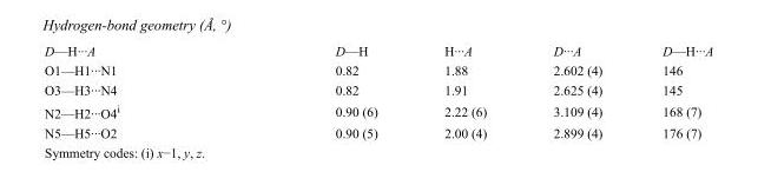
<table><tbody><tr><td>D—H···A</td><td>D—H</td><td>H···A</td><td>D···A</td><td>D—H···A</td></tr><tr><td>O1—H1···N1</td><td>0.82</td><td>1.88</td><td>2.602 (4)</td><td>146</td></tr><tr><td>O3—H3···N4</td><td>0.82</td><td>1.91</td><td>2.625 (4)</td><td>145</td></tr><tr><td>N2—H2···O4<sup>i</sup></td><td>0.90 (6)</td><td>2.22 (6)</td><td>3.109 (4)</td><td>168 (7)</td></tr><tr><td>N5—H5···O2</td><td>0.90 (5)</td><td>2.00 (4)</td><td>2.899 (4)</td><td>176 (7)</td></tr></tbody></table>